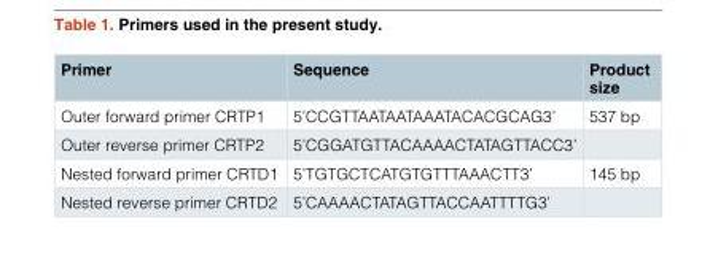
<table><thead><tr><td>Primer</td><td>Sequence</td><td>Product size</td></tr></thead><tbody><tr><td>Outer forward primer CRTP1</td><td>5’CCGTTAATAATAAATACACGCAG3’</td><td>537 bp</td></tr><tr><td>Outer reverse primer CRTP2</td><td>5’CGGATGTTACAAAACTATAGTTACC3’</td><td></td></tr><tr><td>Nested forward primer CRTD1</td><td>5’TGTGCTCATGTGTTTAAACTT3’</td><td>145 bp</td></tr><tr><td>Nested reverse primer CRTD2</td><td>5’CAAAACTATAGTTACCAATTTTG3’</td><td></td></tr></tbody></table>